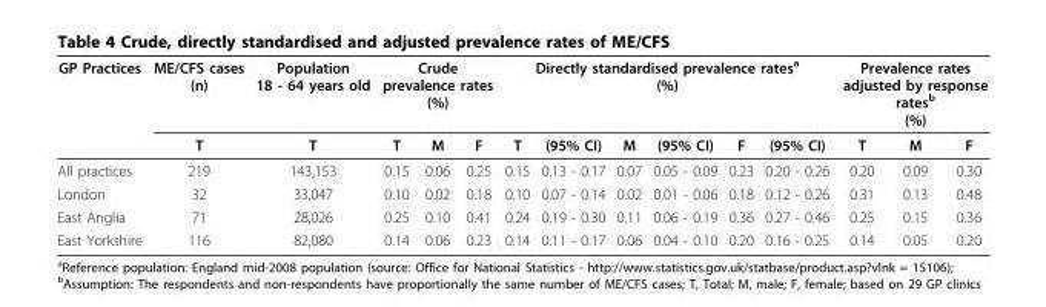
<table><thead><tr><td rowspan="2">GP Practices</td><td rowspan="2">ME/CFS cases (n) T</td><td rowspan="2">Population 18 - 64 years old T</td><td colspan="3">Crude prevalence rates (%)</td><td colspan="6">Directly standardised prevalence rates<sup>a</sup> (%)</td><td colspan="3">Prevalence rates adjusted by response rates<sup>b</sup> (%)</td></tr><tr><td>T</td><td>M</td><td>F</td><td>T</td><td>(95% CI)</td><td>M</td><td>(95% CI)</td><td>F</td><td>(95% CI)</td><td>T</td><td>M</td><td>F</td></tr></thead><tbody><tr><td>All practices</td><td>219</td><td>143,153</td><td>0.15</td><td>0.06</td><td>0.25</td><td>0.15</td><td>0.13 - 0.17</td><td>0.07</td><td>0.05 - 0.09</td><td>0.23</td><td>0.20 - 0.26</td><td>0.20</td><td>0.09</td><td>0.30</td></tr><tr><td>London</td><td>32</td><td>33,047</td><td>0.10</td><td>0.02</td><td>0.18</td><td>0.10</td><td>0.07 - 0.14</td><td>0.02</td><td>0.01 - 0.06</td><td>0.18</td><td>0.12 - 0.26</td><td>0.31</td><td>0.13</td><td>0.48</td></tr><tr><td>East Anglia</td><td>71</td><td>28,026</td><td>0.25</td><td>0.10</td><td>0.41</td><td>0.24</td><td>0.19 - 0.30</td><td>0.11</td><td>0.06 - 0.19</td><td>0.36</td><td>0.27 - 0.46</td><td>0.25</td><td>0.15</td><td>0.36</td></tr><tr><td>East Yorkshire</td><td>116</td><td>82,080</td><td>0.14</td><td>0.06</td><td>0.23</td><td>0.14</td><td>0.11 - 0.17</td><td>0.06</td><td>0.04 - 0.10</td><td>0.20</td><td>0.16 - 0.25</td><td>0.14</td><td>0.05</td><td>0.20</td></tr></tbody></table>